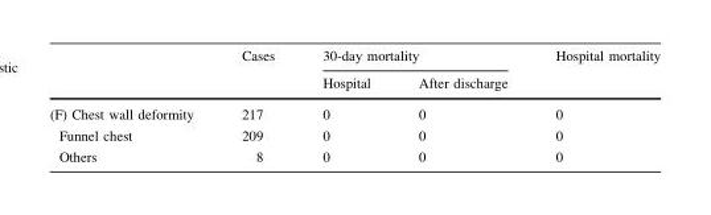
<table><thead><tr><td rowspan="2"></td><td rowspan="2">Cases</td><td colspan="2">30-day mortality</td><td rowspan="2">Hospital mortality</td></tr><tr><td>Hospital</td><td>After discharge</td></tr></thead><tbody><tr><td>(F) Chest wall deformity</td><td>217</td><td>0</td><td>0</td><td>0</td></tr><tr><td>Funnel chest</td><td>209</td><td>0</td><td>0</td><td>0</td></tr><tr><td>Others</td><td>8</td><td>0</td><td>0</td><td>0</td></tr></tbody></table>